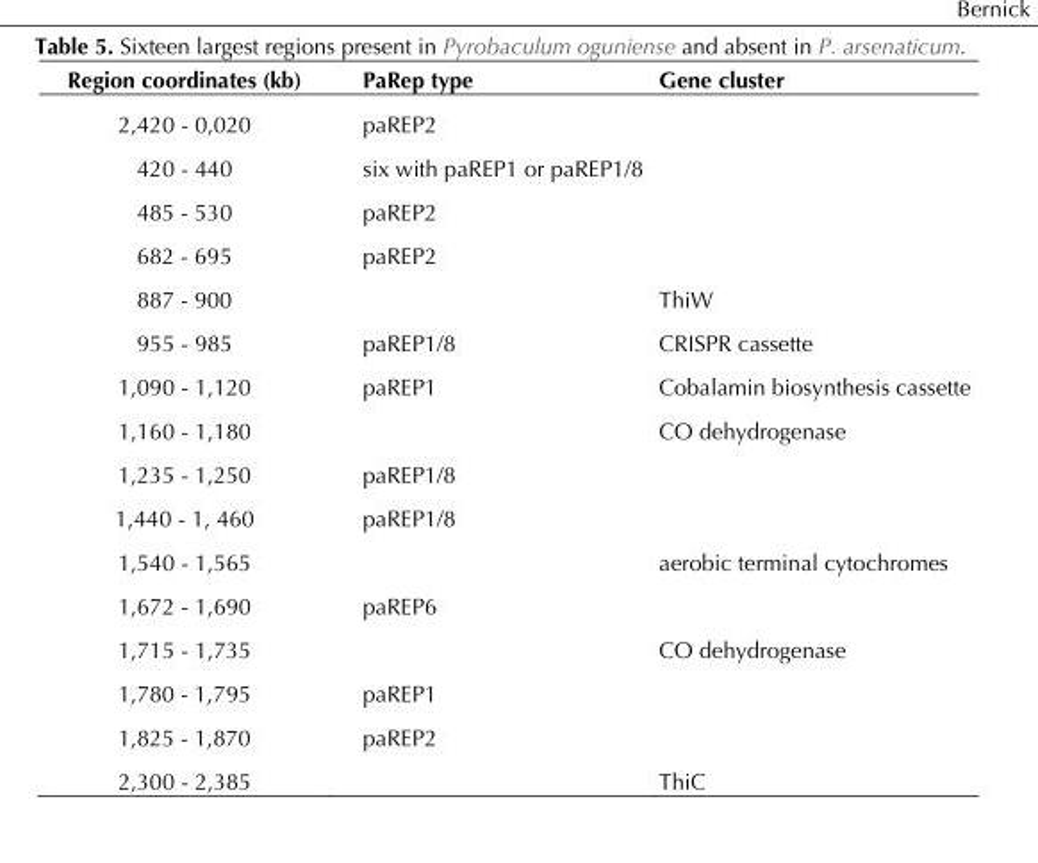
<table><thead><tr><td>Region coordinates (kb)</td><td>PaRep type</td><td>Gene cluster</td></tr></thead><tbody><tr><td>2,420 - 0,020</td><td>paREP2</td><td></td></tr><tr><td>420 - 440</td><td>six with paREP1 or paREP1/8</td><td></td></tr><tr><td>485 - 530</td><td>paREP2</td><td></td></tr><tr><td>682 - 695</td><td>paREP2</td><td></td></tr><tr><td>887 - 900</td><td></td><td>ThiW</td></tr><tr><td>955 - 985</td><td>paREP1/8</td><td>CRISPR cassette</td></tr><tr><td>1,090 - 1,120</td><td>paREP1</td><td>Cobalamin biosynthesis cassette</td></tr><tr><td>1,160 - 1,180</td><td></td><td>CO dehydrogenase</td></tr><tr><td>1,235 - 1,250</td><td>paREP1/8</td><td></td></tr><tr><td>1,440 - 1, 460</td><td>paREP1/8</td><td></td></tr><tr><td>1,540 - 1,565</td><td></td><td>aerobic terminal cytochromes</td></tr><tr><td>1,672 - 1,690</td><td>paREP6</td><td></td></tr><tr><td>1,715 - 1,735</td><td></td><td>CO dehydrogenase</td></tr><tr><td>1,780 - 1,795</td><td>paREP1</td><td></td></tr><tr><td>1,825 - 1,870</td><td>paREP2</td><td></td></tr><tr><td>2,300 - 2,385</td><td></td><td>ThiC</td></tr></tbody></table>